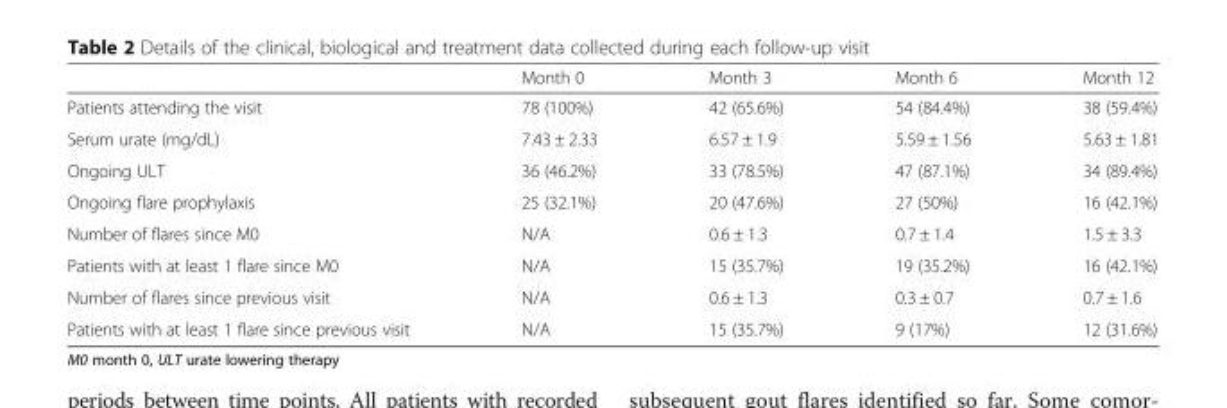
<table><thead><tr><td></td><td>Month 0</td><td>Month 3</td><td>Month 6</td><td>Month 12</td></tr></thead><tbody><tr><td>Patients attending the visit</td><td>78 (100%)</td><td>42 (65.6%)</td><td>54 (84.4%)</td><td>38 (59.4%)</td></tr><tr><td>Serum urate (mg/dL)</td><td>7.43 ± 2.33</td><td>6.57 ± 1.9</td><td>5.59 ± 1.56</td><td>5.63 ± 1.81</td></tr><tr><td>Ongoing ULT</td><td>36 (46.2%)</td><td>33 (78.5%)</td><td>47 (87.1%)</td><td>34 (89.4%)</td></tr><tr><td>Ongoing flare prophylaxis</td><td>25 (32.1%)</td><td>20 (47.6%)</td><td>27 (50%)</td><td>16 (42.1%)</td></tr><tr><td>Number of flares since M0</td><td>N/A</td><td>0.6 ± 1.3</td><td>0.7 ± 1.4</td><td>1.5 ± 3.3</td></tr><tr><td>Patients with at least 1 flare since M0</td><td>N/A</td><td>15 (35.7%)</td><td>19 (35.2%)</td><td>16 (42.1%)</td></tr><tr><td>Number of flares since previous visit</td><td>N/A</td><td>0.6 ± 1.3</td><td>0.3 ± 0.7</td><td>0.7 ± 1.6</td></tr><tr><td>Patients with at least 1 flare since previous visit</td><td>N/A</td><td>15 (35.7%)</td><td>9 (17%)</td><td>12 (31.6%)</td></tr></tbody></table>